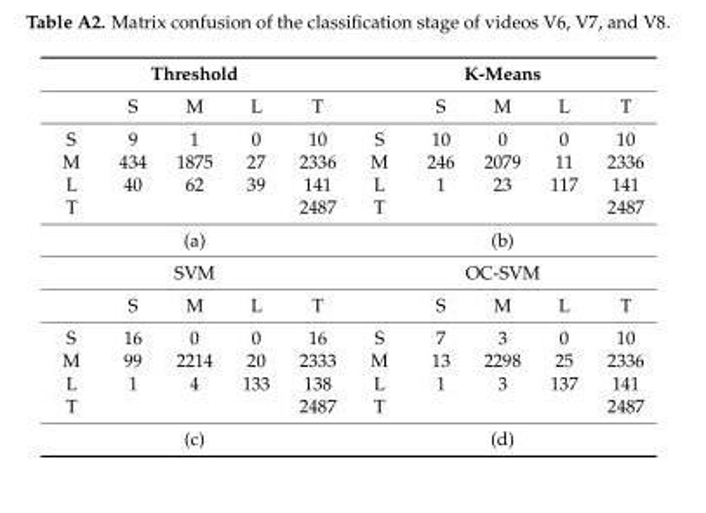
<table><thead><tr><td colspan="5">Threshold</td><td colspan="5">K-Means</td></tr><tr><td></td><td>S</td><td>M</td><td>L</td><td>T</td><td></td><td>S</td><td>M</td><td>L</td><td>T</td></tr></thead><tbody><tr><td>S</td><td>9</td><td>1</td><td>0</td><td>10</td><td>S</td><td>10</td><td>0</td><td>0</td><td>10</td></tr><tr><td>M</td><td>434</td><td>1875</td><td>27</td><td>2336</td><td>M</td><td>246</td><td>2079</td><td>11</td><td>2336</td></tr><tr><td>L</td><td>40</td><td>62</td><td>39</td><td>141</td><td>L</td><td>1</td><td>23</td><td>117</td><td>141</td></tr><tr><td>T</td><td colspan="3"></td><td>2487</td><td>T</td><td colspan="3"></td><td>2487</td></tr><tr><td colspan="5">(a)</td><td colspan="5">(b)</td></tr><tr><td colspan="5">SVM</td><td colspan="5">OC-SVM</td></tr><tr><td></td><td>S</td><td>M</td><td>L</td><td>T</td><td></td><td>S</td><td>M</td><td>L</td><td>T</td></tr><tr><td>S</td><td>16</td><td>0</td><td>0</td><td>16</td><td>S</td><td>7</td><td>3</td><td>0</td><td>10</td></tr><tr><td>M</td><td>99</td><td>2214</td><td>20</td><td>2333</td><td>M</td><td>13</td><td>2298</td><td>25</td><td>2336</td></tr><tr><td>L</td><td>1</td><td>4</td><td>133</td><td>138</td><td>L</td><td>1</td><td>3</td><td>137</td><td>141</td></tr><tr><td>T</td><td colspan="3"></td><td>2487</td><td>T</td><td colspan="3"></td><td>2487</td></tr><tr><td colspan="5">(c)</td><td colspan="5">(d)</td></tr></tbody></table>